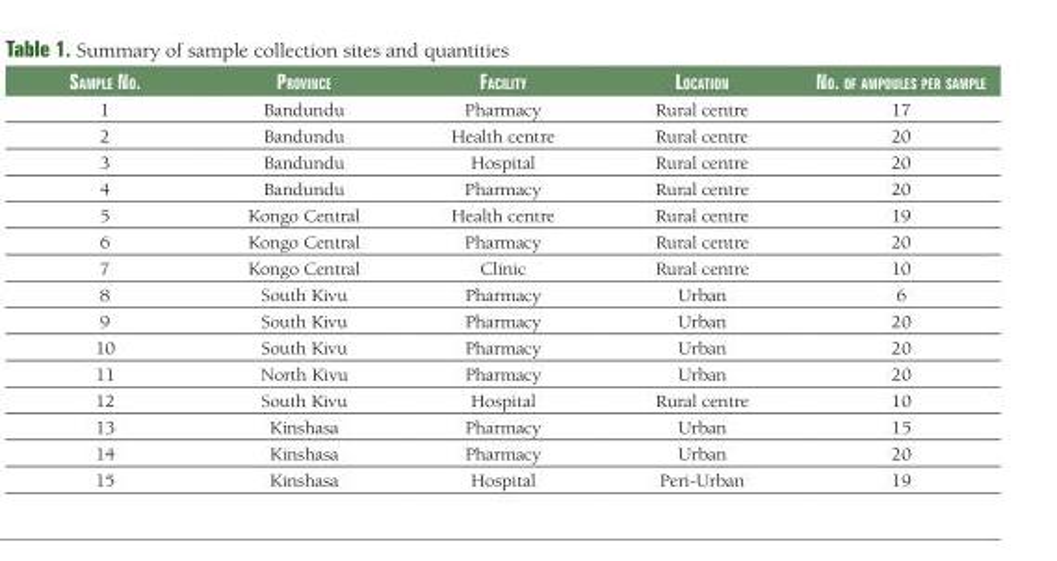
<table><thead><tr><td>Sample No.</td><td>proviNce</td><td>Facility</td><td>locatioN</td><td>No. oF ampouleS per Sample</td></tr></thead><tbody><tr><td>1</td><td>Bandundu</td><td>Pharmacy</td><td>Rural centre</td><td>17</td></tr><tr><td>2</td><td>Bandundu</td><td>Health centre</td><td>Rural centre</td><td>20</td></tr><tr><td>3</td><td>Bandundu</td><td>Hospital</td><td>Rural centre</td><td>20</td></tr><tr><td>4</td><td>Bandundu</td><td>Pharmacy</td><td>Rural centre</td><td>20</td></tr><tr><td>5</td><td>Kongo Central</td><td>Health centre</td><td>Rural centre</td><td>19</td></tr><tr><td>6</td><td>Kongo Central</td><td>Pharmacy</td><td>Rural centre</td><td>20</td></tr><tr><td>7</td><td>Kongo Central</td><td>Clinic</td><td>Rural centre</td><td>10</td></tr><tr><td>8</td><td>South Kivu</td><td>Pharmacy</td><td>Urban</td><td>6</td></tr><tr><td>9</td><td>South Kivu</td><td>Pharmacy</td><td>Urban</td><td>20</td></tr><tr><td>10</td><td>South Kivu</td><td>Pharmacy</td><td>Urban</td><td>20</td></tr><tr><td>11</td><td>North Kivu</td><td>Pharmacy</td><td>Urban</td><td>20</td></tr><tr><td>12</td><td>South Kivu</td><td>Hospital</td><td>Rural centre</td><td>10</td></tr><tr><td>13</td><td>Kinshasa</td><td>Pharmacy</td><td>Urban</td><td>15</td></tr><tr><td>14</td><td>Kinshasa</td><td>Pharmacy</td><td>Urban</td><td>20</td></tr><tr><td>15</td><td>Kinshasa</td><td>Hospital</td><td>Peri-Urban</td><td>19</td></tr></tbody></table>